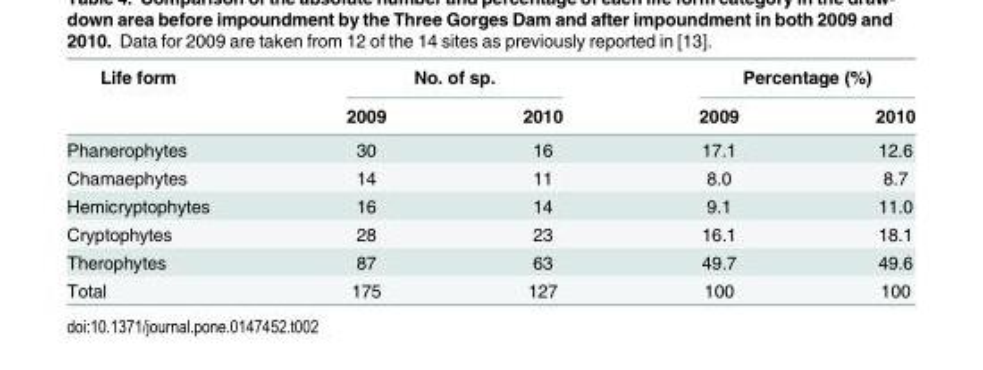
<table><thead><tr><td rowspan="2">Life form</td><td colspan="2">No. of sp.</td><td colspan="2">Percentage (%)</td></tr><tr><td>2009</td><td>2010</td><td>2009</td><td>2010</td></tr></thead><tbody><tr><td>Phanerophytes</td><td>30</td><td>16</td><td>17.1</td><td>12.6</td></tr><tr><td>Chamaephytes</td><td>14</td><td>11</td><td>8.0</td><td>8.7</td></tr><tr><td>Hemicryptophytes</td><td>16</td><td>14</td><td>9.1</td><td>11.0</td></tr><tr><td>Cryptophytes</td><td>28</td><td>23</td><td>16.1</td><td>18.1</td></tr><tr><td>Therophytes</td><td>87</td><td>63</td><td>49.7</td><td>49.6</td></tr><tr><td>Total</td><td>175</td><td>127</td><td>100</td><td>100</td></tr></tbody></table>